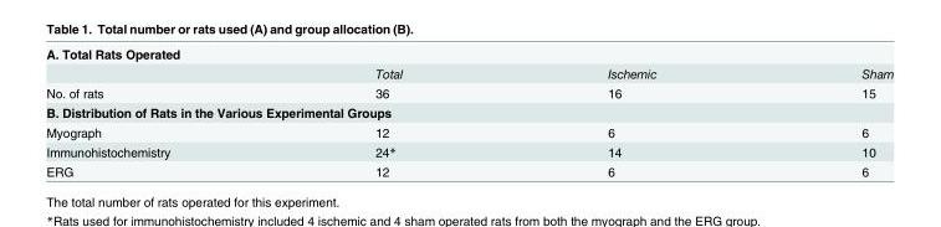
<table><tbody><tr><td colspan="4">A. Total Rats Operated</td></tr><tr><td></td><td>Total</td><td>Ischemic</td><td>Sham</td></tr><tr><td>No. of rats</td><td>36</td><td>16</td><td>15</td></tr><tr><td colspan="4">B. Distribution of Rats in the Various Experimental Groups</td></tr><tr><td>Myograph</td><td>12</td><td>6</td><td>6</td></tr><tr><td>Immunohistochemistry</td><td>24*</td><td>14</td><td>10</td></tr><tr><td>ERG</td><td>12</td><td>6</td><td>6</td></tr></tbody></table>